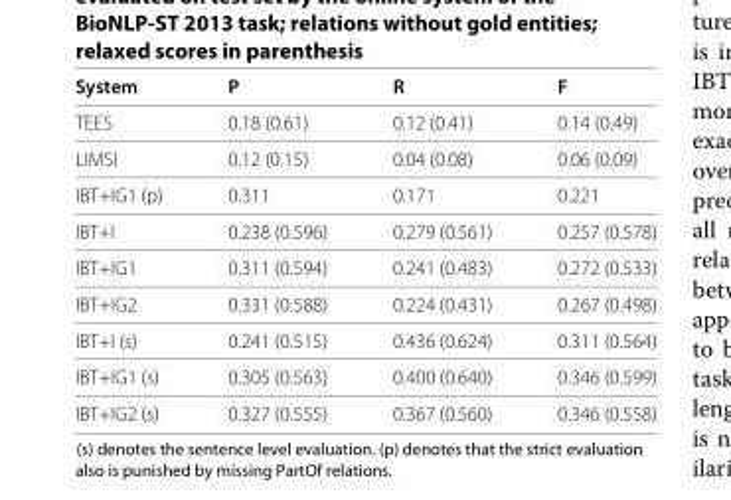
<table><thead><tr><td>System</td><td>P</td><td>R</td><td>F</td></tr></thead><tbody><tr><td>TEES</td><td>0.18 (0.61)</td><td>0.12 (0.41)</td><td>0.14 (0.49)</td></tr><tr><td>LIMSI</td><td>0.12 (0.15)</td><td>0.04 (0.08)</td><td>0.06 (0.09)</td></tr><tr><td>IBT+IG1 (p)</td><td>0.311</td><td>0.171</td><td>0.221</td></tr><tr><td>IBT+I</td><td>0.238 (0.596)</td><td>0.279 (0.561)</td><td>0.257 (0.578)</td></tr><tr><td>IBT+IG1</td><td>0.311 (0.594)</td><td>0.241 (0.483)</td><td>0.272 (0.533)</td></tr><tr><td>IBT+IG2</td><td>0.331 (0.588)</td><td>0.224 (0.431)</td><td>0.267 (0.498)</td></tr><tr><td>IBT+I (s)</td><td>0.241 (0.515)</td><td>0.436 (0.624)</td><td>0.311 (0.564)</td></tr><tr><td>IBT+IG1 (s)</td><td>0.305 (0.563)</td><td>0.400 (0.640)</td><td>0.346 (0.599)</td></tr><tr><td>IBT+IG2 (s)</td><td>0.327 (0.555)</td><td>0.367 (0.560)</td><td>0.346 (0.558)</td></tr></tbody></table>